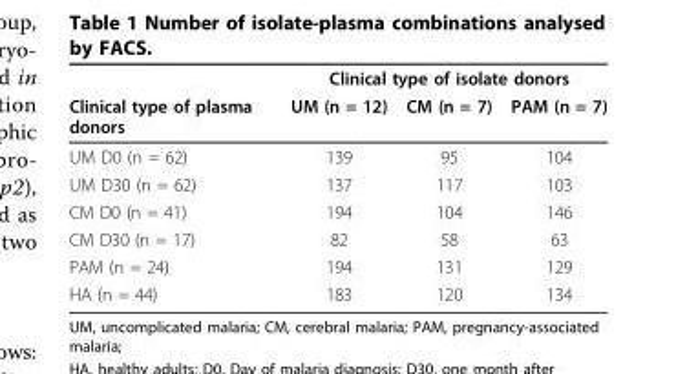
<table><thead><tr><td rowspan="2">Clinical type of plasma donors</td><td colspan="3">Clinical type of isolate donors</td></tr><tr><td>UM (n = 12)</td><td>CM (n = 7)</td><td>PAM (n = 7)</td></tr></thead><tbody><tr><td>UM D0 (n = 62)</td><td>139</td><td>95</td><td>104</td></tr><tr><td>UM D30 (n = 62)</td><td>137</td><td>117</td><td>103</td></tr><tr><td>CM D0 (n = 41)</td><td>194</td><td>104</td><td>146</td></tr><tr><td>CM D30 (n = 17)</td><td>82</td><td>58</td><td>63</td></tr><tr><td>PAM (n = 24)</td><td>194</td><td>131</td><td>129</td></tr><tr><td>HA (n = 44)</td><td>183</td><td>120</td><td>134</td></tr></tbody></table>